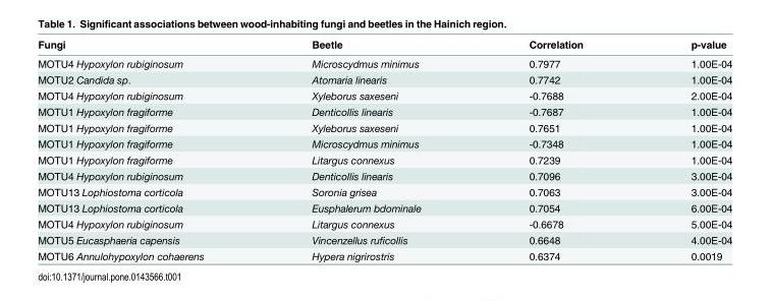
<table><thead><tr><td>Fungi</td><td>Beetle</td><td>Correlation</td><td>p-value</td></tr></thead><tbody><tr><td>MOTU4 Hypoxylon rubiginosum</td><td>Microscydmus minimus</td><td>0.7977</td><td>1.00E-04</td></tr><tr><td>MOTU2 Candida sp.</td><td>Atomaria linearis</td><td>0.7742</td><td>1.00E-04</td></tr><tr><td>MOTU4 Hypoxylon rubiginosum</td><td>Xyleborus saxeseni</td><td>-0.7688</td><td>2.00E-04</td></tr><tr><td>MOTU1 Hypoxylon fragiforme</td><td>Denticollis linearis</td><td>-0.7687</td><td>1.00E-04</td></tr><tr><td>MOTU1 Hypoxylon fragiforme</td><td>Xyleborus saxeseni</td><td>0.7651</td><td>1.00E-04</td></tr><tr><td>MOTU1 Hypoxylon fragiforme</td><td>Microscydmus minimus</td><td>-0.7348</td><td>1.00E-04</td></tr><tr><td>MOTU1 Hypoxylon fragiforme</td><td>Litargus connexus</td><td>0.7239</td><td>1.00E-04</td></tr><tr><td>MOTU4 Hypoxylon rubiginosum</td><td>Denticollis linearis</td><td>0.7096</td><td>3.00E-04</td></tr><tr><td>MOTU13 Lophiostoma corticola</td><td>Soronia grisea</td><td>0.7063</td><td>3.00E-04</td></tr><tr><td>MOTU13 Lophiostoma corticola</td><td>Eusphalerum bdominale</td><td>0.7054</td><td>6.00E-04</td></tr><tr><td>MOTU4 Hypoxylon rubiginosum</td><td>Litargus connexus</td><td>-0.6678</td><td>5.00E-04</td></tr><tr><td>MOTU5 Eucasphaeria capensis</td><td>Vincenzellus ruficollis</td><td>0.6648</td><td>4.00E-04</td></tr><tr><td>MOTU6 Annulohypoxylon cohaerens</td><td>Hypera nigrirostris</td><td>0.6374</td><td>0.0019</td></tr></tbody></table>